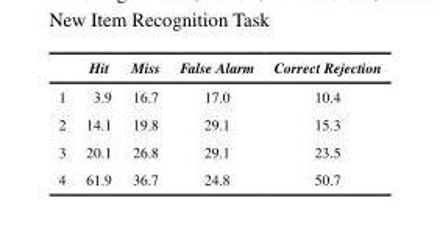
<table><thead><tr><td></td><td>Hit</td><td>Miss</td><td>False Alarm</td><td>Correct Rejection</td></tr></thead><tbody><tr><td>1</td><td>3.9</td><td>16.7</td><td>17.0</td><td>10.4</td></tr><tr><td>2</td><td>14.1</td><td>19.8</td><td>29.1</td><td>15.3</td></tr><tr><td>3</td><td>20.1</td><td>26.8</td><td>29.1</td><td>23.5</td></tr><tr><td>4</td><td>61.9</td><td>36.7</td><td>24.8</td><td>50.7</td></tr></tbody></table>